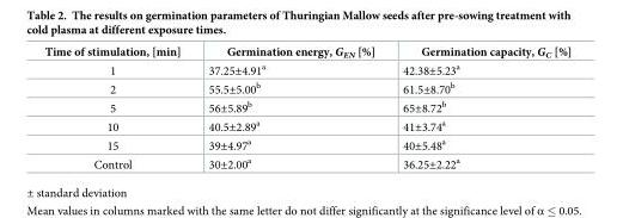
<table><thead><tr><td>Time of stimulation, [min]</td><td>Germination energy, G<sub>EN</sub> [%]</td><td>Germination capacity, G<sub>C</sub> [%]</td></tr></thead><tbody><tr><td>1</td><td>37.25±4.91<sup>a</sup></td><td>42.38±5.23<sup>a</sup></td></tr><tr><td>2</td><td>55.5±5.00<sup>b</sup></td><td>61.5±8.70<sup>b</sup></td></tr><tr><td>5</td><td>56±5.89<sup>b</sup></td><td>65±8.72<sup>b</sup></td></tr><tr><td>10</td><td>40.5±2.89<sup>a</sup></td><td>41±3.74<sup>a</sup></td></tr><tr><td>15</td><td>39±4.97<sup>a</sup></td><td>40±5.48<sup>a</sup></td></tr><tr><td>Control</td><td>30±2.00<sup>a</sup></td><td>36.25±2.22<sup>a</sup></td></tr></tbody></table>